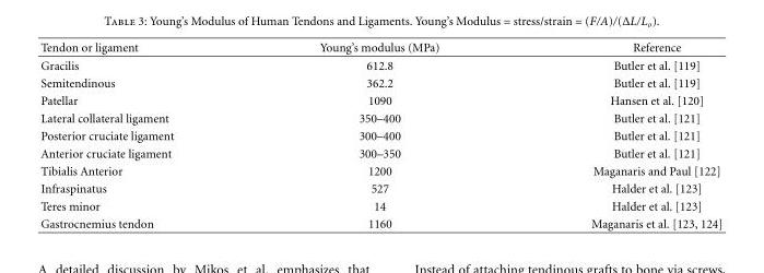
<table><thead><tr><td>Tendon or ligament</td><td>Young’s modulus (MPa)</td><td>Reference</td></tr></thead><tbody><tr><td>Gracilis</td><td>612.8</td><td>Butler et al. [119]</td></tr><tr><td>Semitendinous</td><td>362.2</td><td>Butler et al. [119]</td></tr><tr><td>Patellar</td><td>1090</td><td>Hansen et al. [120]</td></tr><tr><td>Lateral collateral ligament</td><td>350–400</td><td>Butler et al. [121]</td></tr><tr><td>Posterior cruciate ligament</td><td>300–400</td><td>Butler et al. [121]</td></tr><tr><td>Anterior cruciate ligament</td><td>300–350</td><td>Butler et al. [121]</td></tr><tr><td>Tibialis Anterior</td><td>1200</td><td>Maganaris and Paul [122]</td></tr><tr><td>Infraspinatus</td><td>527</td><td>Halder et al. [123]</td></tr><tr><td>Teres minor</td><td>14</td><td>Halder et al. [123]</td></tr><tr><td>Gastrocnemius tendon</td><td>1160</td><td>Maganaris et al. [123, 124]</td></tr></tbody></table>